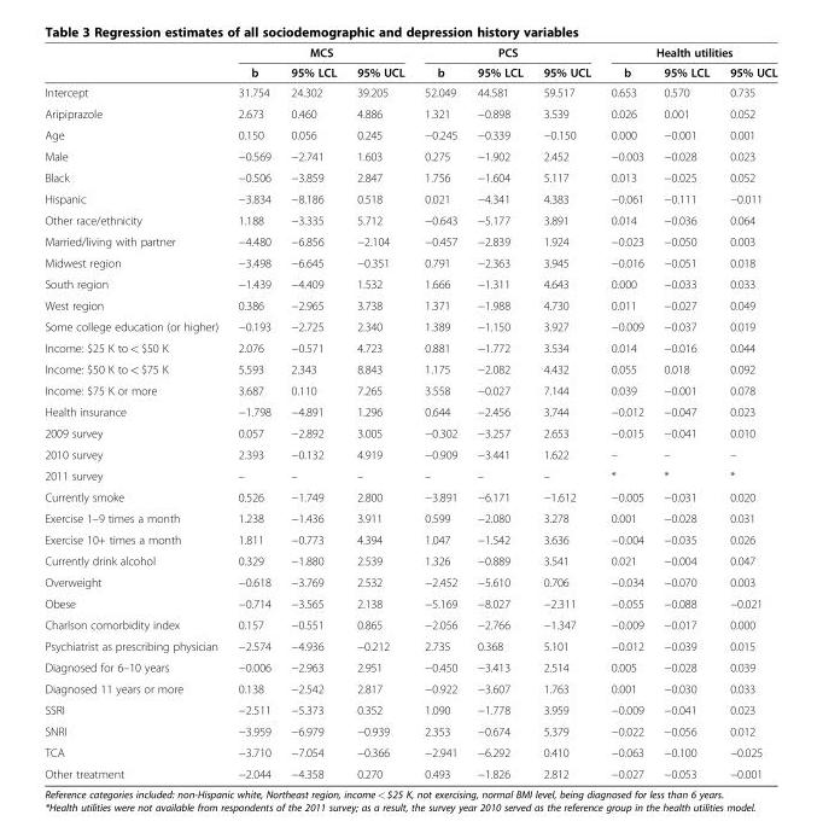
<table><thead><tr><td rowspan="2"></td><td rowspan="2">b</td><td colspan="2">MCS</td><td colspan="3">PCS</td><td colspan="3">Health utilities</td></tr><tr><td>95% LCL</td><td>95% UCL</td><td>b</td><td>95% LCL</td><td>95% UCL</td><td>b</td><td>95% LCL</td><td>95% UCL</td></tr></thead><tbody><tr><td>Intercept</td><td>31.754</td><td>24.302</td><td>39.205</td><td>52.049</td><td>44.581</td><td>59.517</td><td>0.653</td><td>0.570</td><td>0.735</td></tr><tr><td>Aripiprazole</td><td>2.673</td><td>0.460</td><td>4.886</td><td>1.321</td><td>−0.898</td><td>3.539</td><td>0.026</td><td>0.001</td><td>0.052</td></tr><tr><td>Age</td><td>0.150</td><td>0.056</td><td>0.245</td><td>−0.245</td><td>−0.339</td><td>−0.150</td><td>0.000</td><td>−0.001</td><td>0.001</td></tr><tr><td>Male</td><td>−0.569</td><td>−2.741</td><td>1.603</td><td>0.275</td><td>−1.902</td><td>2.452</td><td>−0.003</td><td>−0.028</td><td>0.023</td></tr><tr><td>Black</td><td>−0.506</td><td>−3.859</td><td>2.847</td><td>1.756</td><td>−1.604</td><td>5.117</td><td>0.013</td><td>−0.025</td><td>0.052</td></tr><tr><td>Hispanic</td><td>−3.834</td><td>−8.186</td><td>0.518</td><td>0.021</td><td>−4.341</td><td>4.383</td><td>−0.061</td><td>−0.111</td><td>−0.011</td></tr><tr><td>Other race/ethnicity</td><td>1.188</td><td>−3.335</td><td>5.712</td><td>−0.643</td><td>−5.177</td><td>3.891</td><td>0.014</td><td>−0.036</td><td>0.064</td></tr><tr><td>Married/living with partner</td><td>−4.480</td><td>−6.856</td><td>−2.104</td><td>−0.457</td><td>−2.839</td><td>1.924</td><td>−0.023</td><td>−0.050</td><td>0.003</td></tr><tr><td>Midwest region</td><td>−3.498</td><td>−6.645</td><td>−0.351</td><td>0.791</td><td>−2.363</td><td>3.945</td><td>−0.016</td><td>−0.051</td><td>0.018</td></tr><tr><td>South region</td><td>−1.439</td><td>−4.409</td><td>1.532</td><td>1.666</td><td>−1.311</td><td>4.643</td><td>0.000</td><td>−0.033</td><td>0.033</td></tr><tr><td>West region</td><td>0.386</td><td>−2.965</td><td>3.738</td><td>1.371</td><td>−1.988</td><td>4.730</td><td>0.011</td><td>−0.027</td><td>0.049</td></tr><tr><td>Some college education (or higher)</td><td>−0.193</td><td>−2.725</td><td>2.340</td><td>1.389</td><td>−1.150</td><td>3.927</td><td>−0.009</td><td>−0.037</td><td>0.019</td></tr><tr><td>Income: $25 K to &lt; $50 K</td><td>2.076</td><td>−0.571</td><td>4.723</td><td>0.881</td><td>−1.772</td><td>3.534</td><td>0.014</td><td>−0.016</td><td>0.044</td></tr><tr><td>Income: $50 K to &lt; $75 K</td><td>5.593</td><td>2.343</td><td>8.843</td><td>1.175</td><td>−2.082</td><td>4.432</td><td>0.055</td><td>0.018</td><td>0.092</td></tr><tr><td>Income: $75 K or more</td><td>3.687</td><td>0.110</td><td>7.265</td><td>3.558</td><td>−0.027</td><td>7.144</td><td>0.039</td><td>−0.001</td><td>0.078</td></tr><tr><td>Health insurance</td><td>−1.798</td><td>−4.891</td><td>1.296</td><td>0.644</td><td>−2.456</td><td>3.744</td><td>−0.012</td><td>−0.047</td><td>0.023</td></tr><tr><td>2009 survey</td><td>0.057</td><td>−2.892</td><td>3.005</td><td>−0.302</td><td>−3.257</td><td>2.653</td><td>−0.015</td><td>−0.041</td><td>0.010</td></tr><tr><td>2010 survey</td><td>2.393</td><td>−0.132</td><td>4.919</td><td>−0.909</td><td>−3.441</td><td>1.622</td><td>–</td><td>–</td><td>–</td></tr><tr><td>2011 survey</td><td>–</td><td>–</td><td>–</td><td>–</td><td>–</td><td>–</td><td>*</td><td>*</td><td>*</td></tr><tr><td>Currently smoke</td><td>0.526</td><td>−1.749</td><td>2.800</td><td>−3.891</td><td>−6.171</td><td>−1.612</td><td>−0.005</td><td>−0.031</td><td>0.020</td></tr><tr><td>Exercise 1–9 times a month</td><td>1.238</td><td>−1.436</td><td>3.911</td><td>0.599</td><td>−2.080</td><td>3.278</td><td>0.001</td><td>−0.028</td><td>0.031</td></tr><tr><td>Exercise 10+ times a month</td><td>1.811</td><td>−0.773</td><td>4.394</td><td>1.047</td><td>−1.542</td><td>3.636</td><td>−0.004</td><td>−0.035</td><td>0.026</td></tr><tr><td>Currently drink alcohol</td><td>0.329</td><td>−1.880</td><td>2.539</td><td>1.326</td><td>−0.889</td><td>3.541</td><td>0.021</td><td>−0.004</td><td>0.047</td></tr><tr><td>Overweight</td><td>−0.618</td><td>−3.769</td><td>2.532</td><td>−2.452</td><td>−5.610</td><td>0.706</td><td>−0.034</td><td>−0.070</td><td>0.003</td></tr><tr><td>Obese</td><td>−0.714</td><td>−3.565</td><td>2.138</td><td>−5.169</td><td>−8.027</td><td>−2.311</td><td>−0.055</td><td>−0.088</td><td>−0.021</td></tr><tr><td>Charlson comorbidity index</td><td>0.157</td><td>−0.551</td><td>0.865</td><td>−2.056</td><td>−2.766</td><td>−1.347</td><td>−0.009</td><td>−0.017</td><td>0.000</td></tr><tr><td>Psychiatrist as prescribing physician</td><td>−2.574</td><td>−4.936</td><td>−0.212</td><td>2.735</td><td>0.368</td><td>5.101</td><td>−0.012</td><td>−0.039</td><td>0.015</td></tr><tr><td>Diagnosed for 6–10 years</td><td>−0.006</td><td>−2.963</td><td>2.951</td><td>−0.450</td><td>−3.413</td><td>2.514</td><td>0.005</td><td>−0.028</td><td>0.039</td></tr><tr><td>Diagnosed 11 years or more</td><td>0.138</td><td>−2.542</td><td>2.817</td><td>−0.922</td><td>−3.607</td><td>1.763</td><td>0.001</td><td>−0.030</td><td>0.033</td></tr><tr><td>SSRI</td><td>−2.511</td><td>−5.373</td><td>0.352</td><td>1.090</td><td>−1.778</td><td>3.959</td><td>−0.009</td><td>−0.041</td><td>0.023</td></tr><tr><td>SNRI</td><td>−3.959</td><td>−6.979</td><td>−0.939</td><td>2.353</td><td>−0.674</td><td>5.379</td><td>−0.022</td><td>−0.056</td><td>0.012</td></tr><tr><td>TCA</td><td>−3.710</td><td>−7.054</td><td>−0.366</td><td>−2.941</td><td>−6.292</td><td>0.410</td><td>−0.063</td><td>−0.100</td><td>−0.025</td></tr><tr><td>Other treatment</td><td>−2.044</td><td>−4.358</td><td>0.270</td><td>0.493</td><td>−1.826</td><td>2.812</td><td>−0.027</td><td>−0.053</td><td>−0.001</td></tr></tbody></table>